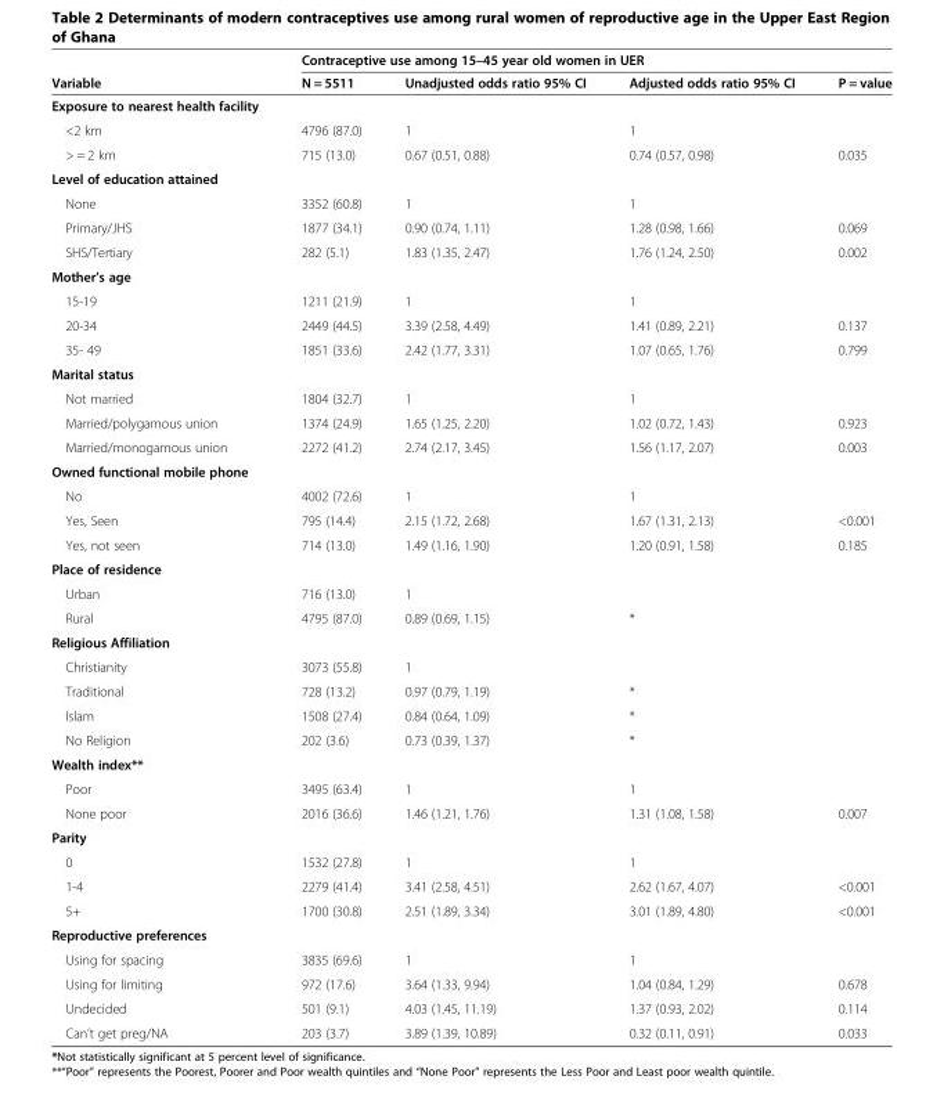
<table><thead><tr><td rowspan="2">Variable</td><td colspan="4">Contraceptive use among 15–45 year old women in UER</td></tr><tr><td>N = 5511</td><td>Unadjusted odds ratio 95% CI</td><td>Adjusted odds ratio 95% CI</td><td>P = value</td></tr></thead><tbody><tr><td colspan="5">Exposure to nearest health facility</td></tr><tr><td>&lt;2 km</td><td>4796 (87.0)</td><td>1</td><td>1</td><td></td></tr><tr><td>&gt; = 2 km</td><td>715 (13.0)</td><td>0.67 (0.51, 0.88)</td><td>0.74 (0.57, 0.98)</td><td>0.035</td></tr><tr><td colspan="5">Level of education attained</td></tr><tr><td>None</td><td>3352 (60.8)</td><td>1</td><td>1</td><td></td></tr><tr><td>Primary/JHS</td><td>1877 (34.1)</td><td>0.90 (0.74, 1.11)</td><td>1.28 (0.98, 1.66)</td><td>0.069</td></tr><tr><td>SHS/Tertiary</td><td>282 (5.1)</td><td>1.83 (1.35, 2.47)</td><td>1.76 (1.24, 2.50)</td><td>0.002</td></tr><tr><td colspan="5">Mother’s age</td></tr><tr><td>15-19</td><td>1211 (21.9)</td><td>1</td><td>1</td><td></td></tr><tr><td>20-34</td><td>2449 (44.5)</td><td>3.39 (2.58, 4.49)</td><td>1.41 (0.89, 2.21)</td><td>0.137</td></tr><tr><td>35- 49</td><td>1851 (33.6)</td><td>2.42 (1.77, 3.31)</td><td>1.07 (0.65, 1.76)</td><td>0.799</td></tr><tr><td colspan="5">Marital status</td></tr><tr><td>Not married</td><td>1804 (32.7)</td><td>1</td><td>1</td><td></td></tr><tr><td>Married/polygamous union</td><td>1374 (24.9)</td><td>1.65 (1.25, 2.20)</td><td>1.02 (0.72, 1.43)</td><td>0.923</td></tr><tr><td>Married/monogamous union</td><td>2272 (41.2)</td><td>2.74 (2.17, 3.45)</td><td>1.56 (1.17, 2.07)</td><td>0.003</td></tr><tr><td colspan="5">Owned functional mobile phone</td></tr><tr><td>No</td><td>4002 (72.6)</td><td>1</td><td>1</td><td></td></tr><tr><td>Yes, Seen</td><td>795 (14.4)</td><td>2.15 (1.72, 2.68)</td><td>1.67 (1.31, 2.13)</td><td>&lt;0.001</td></tr><tr><td>Yes, not seen</td><td>714 (13.0)</td><td>1.49 (1.16, 1.90)</td><td>1.20 (0.91, 1.58)</td><td>0.185</td></tr><tr><td colspan="5">Place of residence</td></tr><tr><td>Urban</td><td>716 (13.0)</td><td>1</td><td></td><td></td></tr><tr><td>Rural</td><td>4795 (87.0)</td><td>0.89 (0.69, 1.15)</td><td>*</td><td></td></tr><tr><td colspan="5">Religious Affiliation</td></tr><tr><td>Christianity</td><td>3073 (55.8)</td><td>1</td><td></td><td></td></tr><tr><td>Traditional</td><td>728 (13.2)</td><td>0.97 (0.79, 1.19)</td><td>*</td><td></td></tr><tr><td>Islam</td><td>1508 (27.4)</td><td>0.84 (0.64, 1.09)</td><td>*</td><td></td></tr><tr><td>No Religion</td><td>202 (3.6)</td><td>0.73 (0.39, 1.37)</td><td>*</td><td></td></tr><tr><td colspan="5">Wealth index**</td></tr><tr><td>Poor</td><td>3495 (63.4)</td><td>1</td><td>1</td><td></td></tr><tr><td>None poor</td><td>2016 (36.6)</td><td>1.46 (1.21, 1.76)</td><td>1.31 (1.08, 1.58)</td><td>0.007</td></tr><tr><td colspan="5">Parity</td></tr><tr><td>0</td><td>1532 (27.8)</td><td>1</td><td>1</td><td></td></tr><tr><td>1-4</td><td>2279 (41.4)</td><td>3.41 (2.58, 4.51)</td><td>2.62 (1.67, 4.07)</td><td>&lt;0.001</td></tr><tr><td>5+</td><td>1700 (30.8)</td><td>2.51 (1.89, 3.34)</td><td>3.01 (1.89, 4.80)</td><td>&lt;0.001</td></tr><tr><td colspan="5">Reproductive preferences</td></tr><tr><td>Using for spacing</td><td>3835 (69.6)</td><td>1</td><td>1</td><td></td></tr><tr><td>Using for limiting</td><td>972 (17.6)</td><td>3.64 (1.33, 9.94)</td><td>1.04 (0.84, 1.29)</td><td>0.678</td></tr><tr><td>Undecided</td><td>501 (9.1)</td><td>4.03 (1.45, 11.19)</td><td>1.37 (0.93, 2.02)</td><td>0.114</td></tr><tr><td>Can’t get preg/NA</td><td>203 (3.7)</td><td>3.89 (1.39, 10.89)</td><td>0.32 (0.11, 0.91)</td><td>0.033</td></tr></tbody></table>